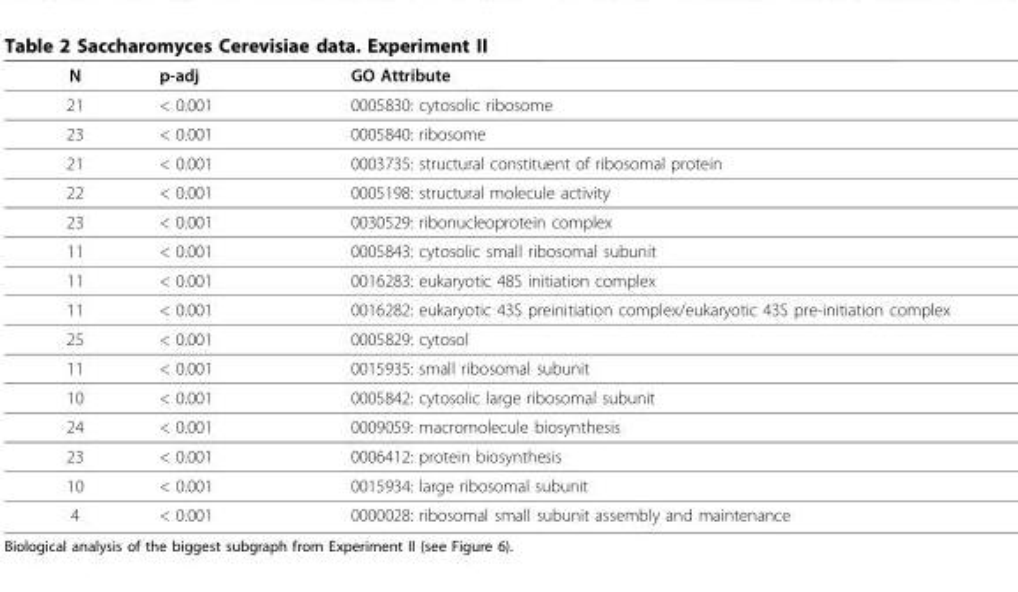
<table><thead><tr><td>N</td><td>p-adj</td><td>GO Attribute</td></tr></thead><tbody><tr><td>21</td><td>&lt; 0.001</td><td>0005830: cytosolic ribosome</td></tr><tr><td>23</td><td>&lt; 0.001</td><td>0005840: ribosome</td></tr><tr><td>21</td><td>&lt; 0.001</td><td>0003735: structural constituent of ribosomal protein</td></tr><tr><td>22</td><td>&lt; 0.001</td><td>0005198: structural molecule activity</td></tr><tr><td>23</td><td>&lt; 0.001</td><td>0030529: ribonucleoprotein complex</td></tr><tr><td>11</td><td>&lt; 0.001</td><td>0005843: cytosolic small ribosomal subunit</td></tr><tr><td>11</td><td>&lt; 0.001</td><td>0016283: eukaryotic 48S initiation complex</td></tr><tr><td>11</td><td>&lt; 0.001</td><td>0016282: eukaryotic 43S preinitiation complex/eukaryotic 43S pre-initiation complex</td></tr><tr><td>25</td><td>&lt; 0.001</td><td>0005829: cytosol</td></tr><tr><td>11</td><td>&lt; 0.001</td><td>0015935: small ribosomal subunit</td></tr><tr><td>10</td><td>&lt; 0.001</td><td>0005842: cytosolic large ribosomal subunit</td></tr><tr><td>24</td><td>&lt; 0.001</td><td>0009059: macromolecule biosynthesis</td></tr><tr><td>23</td><td>&lt; 0.001</td><td>0006412: protein biosynthesis</td></tr><tr><td>10</td><td>&lt; 0.001</td><td>0015934: large ribosomal subunit</td></tr><tr><td>4</td><td>&lt; 0.001</td><td>0000028: ribosomal small subunit assembly and maintenance</td></tr></tbody></table>